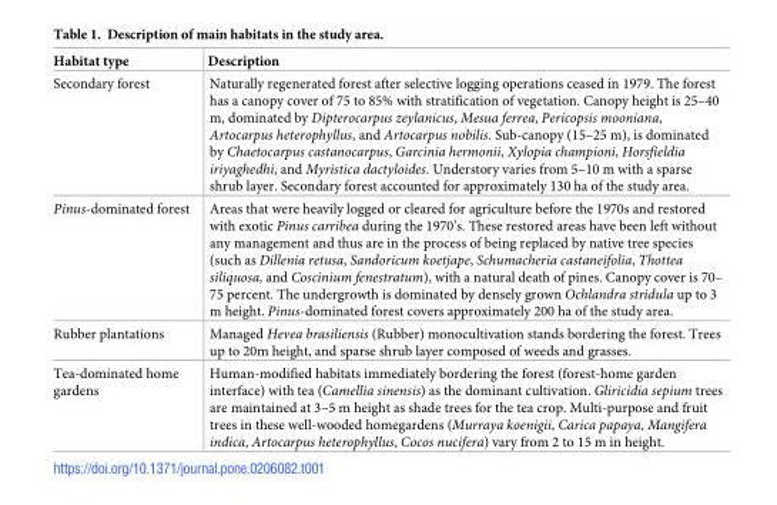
<table><thead><tr><td>Habitat type</td><td>Description</td></tr></thead><tbody><tr><td>Secondary forest</td><td>Naturally regenerated forest after selective logging operations ceased in 1979. The forest has a canopy cover of 75 to 85% with stratification of vegetation. Canopy height is 25–40 m, dominated by Dipterocarpus zeylanicus, Mesua ferrea, Pericopsis mooniana, Artocarpus heterophyllus, and Artocarpus nobilis. Sub-canopy (15–25 m), is dominated by Chaetocarpus castanocarpus, Garcinia hermonii, Xylopia championi, Horsfieldia iriyaghedhi, and Myristica dactyloides. Understory varies from 5–10 m with a sparse shrub layer. Secondary forest accounted for approximately 130 ha of the study area.</td></tr><tr><td>Pinus-dominated forest</td><td>Areas that were heavily logged or cleared for agriculture before the 1970s and restored with exotic Pinus carribea during the 1970’s. These restored areas have been left without any management and thus are in the process of being replaced by native tree species (such as Dillenia retusa, Sandoricum koetjape, Schumacheria castaneifolia, Thottea siliquosa, and Coscinium fenestratum), with a natural death of pines. Canopy cover is 70– 75 percent. The undergrowth is dominated by densely grown Ochlandra stridula up to 3 m height. Pinus-dominated forest covers approximately 200 ha of the study area.</td></tr><tr><td>Rubber plantations</td><td>Managed Hevea brasiliensis (Rubber) monocultivation stands bordering the forest. Trees up to 20m height, and sparse shrub layer composed of weeds and grasses.</td></tr><tr><td>Tea-dominated home gardens</td><td>Human-modified habitats immediately bordering the forest (forest-home garden interface) with tea (Camellia sinensis) as the dominant cultivation. Gliricidia sepium trees are maintained at 3–5 m height as shade trees for the tea crop. Multi-purpose and fruit trees in these well-wooded homegardens (Murraya koenigii, Carica papaya, Mangifera indica, Artocarpus heterophyllus, Cocos nucifera) vary from 2 to 15 m in height.</td></tr></tbody></table>